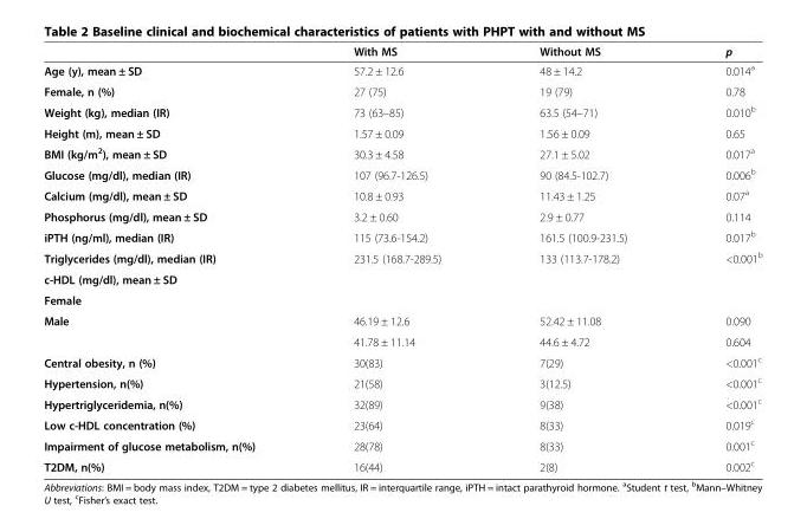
<table><thead><tr><td></td><td>With MS</td><td>Without MS</td><td>p</td></tr></thead><tbody><tr><td>Age (y), mean ± SD</td><td>57.2 ± 12.6</td><td>48 ± 14.2</td><td>0.014<sup>a</sup></td></tr><tr><td>Female, n (%)</td><td>27 (75)</td><td>19 (79)</td><td>0.78</td></tr><tr><td>Weight (kg), median (IR)</td><td>73 (63–85)</td><td>63.5 (54–71)</td><td>0.010<sup>b</sup></td></tr><tr><td>Height (m), mean ± SD</td><td>1.57 ± 0.09</td><td>1.56 ± 0.09</td><td>0.65</td></tr><tr><td>BMI (kg/m<sup>2</sup>), mean ± SD</td><td>30.3 ± 4.58</td><td>27.1 ± 5.02</td><td>0.017<sup>a</sup></td></tr><tr><td>Glucose (mg/dl), median (IR)</td><td>107 (96.7-126.5)</td><td>90 (84.5-102.7)</td><td>0.006<sup>b</sup></td></tr><tr><td>Calcium (mg/dl), mean ± SD</td><td>10.8 ± 0.93</td><td>11.43 ± 1.25</td><td>0.07<sup>a</sup></td></tr><tr><td>Phosphorus (mg/dl), mean ± SD</td><td>3.2 ± 0.60</td><td>2.9 ± 0.77</td><td>0.114</td></tr><tr><td>iPTH (ng/ml), median (IR)</td><td>115 (73.6-154.2)</td><td>161.5 (100.9-231.5)</td><td>0.017<sup>b</sup></td></tr><tr><td>Triglycerides (mg/dl), median (IR)</td><td>231.5 (168.7-289.5)</td><td>133 (113.7-178.2)</td><td>&lt;0.001<sup>b</sup></td></tr><tr><td colspan="4">c-HDL (mg/dl), mean ± SD</td></tr><tr><td colspan="4">Female</td></tr><tr><td rowspan="2">Male</td><td>46.19 ± 12.6</td><td>52.42 ± 11.08</td><td>0.090</td></tr><tr><td>41.78 ± 11.14</td><td>44.6 ± 4.72</td><td>0.604</td></tr><tr><td>Central obesity, n (%)</td><td>30(83)</td><td>7(29)</td><td>&lt;0.001<sup>c</sup></td></tr><tr><td>Hypertension, n(%)</td><td>21(58)</td><td>3(12.5)</td><td>&lt;0.001<sup>c</sup></td></tr><tr><td>Hypertriglyceridemia, n(%)</td><td>32(89)</td><td>9(38)</td><td>&lt;0.001<sup>c</sup></td></tr><tr><td>Low c-HDL concentration (%)</td><td>23(64)</td><td>8(33)</td><td>0.019<sup>c</sup></td></tr><tr><td>Impairment of glucose metabolism, n(%)</td><td>28(78)</td><td>8(33)</td><td>0.001<sup>c</sup></td></tr><tr><td>T2DM, n(%)</td><td>16(44)</td><td>2(8)</td><td>0.002<sup>c</sup></td></tr></tbody></table>